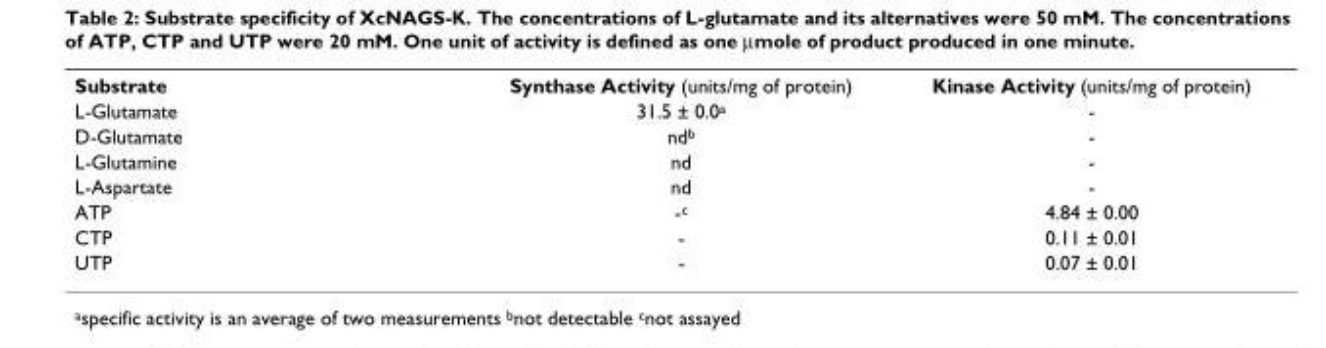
<table><tbody><tr><td>Substrate</td><td>Synthase Activity (units/mg of protein)</td><td>Kinase Activity (units/mg of protein)</td></tr><tr><td>L-Glutamate</td><td>31.5 ± 0.0<sup>a</sup></td><td>-</td></tr><tr><td>D-Glutamate</td><td>nd<sup>b</sup></td><td>-</td></tr><tr><td>L-Glutamine</td><td>nd</td><td>-</td></tr><tr><td>L-Aspartate</td><td>nd</td><td>-</td></tr><tr><td>ATP</td><td>-<sup>c</sup></td><td>4.84 ± 0.00</td></tr><tr><td>CTP</td><td>-</td><td>0.11 ± 0.01</td></tr><tr><td>UTP</td><td>-</td><td>0.07 ± 0.01</td></tr></tbody></table>